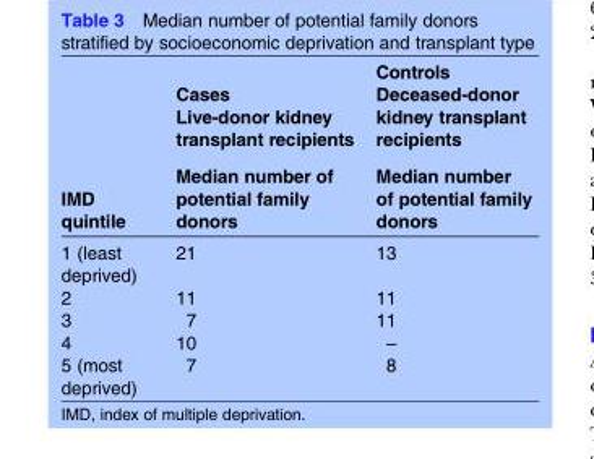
<table><thead><tr><td rowspan="2">IMD quintile</td><td rowspan="2">Cases Live-donor kidney transplant recipients Median number of potential family donors</td><td rowspan="2">Controls Deceased-donor kidney transplant recipients Median number of potential family donors</td></tr><tr></tr></thead><tbody><tr><td>1 (least deprived)</td><td>21</td><td>13</td></tr><tr><td>2</td><td>11</td><td>11</td></tr><tr><td>3</td><td>7</td><td>11</td></tr><tr><td>4</td><td>10</td><td>–</td></tr><tr><td>5 (most deprived)</td><td>7</td><td>8</td></tr></tbody></table>